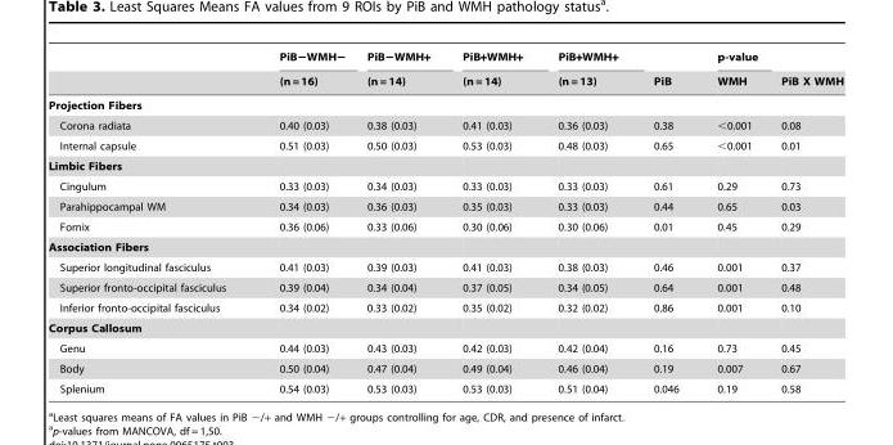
<table><thead><tr><td rowspan="2"></td><td rowspan="2">PiB−WMH− (n = 16)</td><td rowspan="2">PiB−WMH+ (n = 14)</td><td rowspan="2">PiB+WMH+ (n = 14)</td><td rowspan="2">PiB+WMH+ (n = 13)</td><td rowspan="2">PiB</td><td rowspan="2">p-value WMH</td><td rowspan="2">PiB X WMH</td></tr><tr></tr></thead><tbody><tr><td colspan="8">Projection Fibers</td></tr><tr><td>Corona radiata</td><td>0.40 (0.03)</td><td>0.38 (0.03)</td><td>0.41 (0.03)</td><td>0.36 (0.03)</td><td>0.38</td><td>&lt;0.001</td><td>0.08</td></tr><tr><td>Internal capsule</td><td>0.51 (0.03)</td><td>0.50 (0.03)</td><td>0.53 (0.03)</td><td>0.48 (0.03)</td><td>0.65</td><td>&lt;0.001</td><td>0.01</td></tr><tr><td colspan="8">Limbic Fibers</td></tr><tr><td>Cingulum</td><td>0.33 (0.03)</td><td>0.34 (0.03)</td><td>0.33 (0.03)</td><td>0.33 (0.03)</td><td>0.61</td><td>0.29</td><td>0.73</td></tr><tr><td>Parahippocampal WM</td><td>0.34 (0.03)</td><td>0.36 (0.03)</td><td>0.35 (0.03)</td><td>0.33 (0.03)</td><td>0.44</td><td>0.65</td><td>0.03</td></tr><tr><td>Fornix</td><td>0.36 (0.06)</td><td>0.33 (0.06)</td><td>0.30 (0.06)</td><td>0.30 (0.06)</td><td>0.01</td><td>0.45</td><td>0.29</td></tr><tr><td colspan="8">Association Fibers</td></tr><tr><td>Superior longitudinal fasciculus</td><td>0.41 (0.03)</td><td>0.39 (0.03)</td><td>0.41 (0.03)</td><td>0.38 (0.03)</td><td>0.46</td><td>0.001</td><td>0.37</td></tr><tr><td>Superior fronto-occipital fasciculus</td><td>0.39 (0.04)</td><td>0.34 (0.04)</td><td>0.37 (0.05)</td><td>0.34 (0.05)</td><td>0.64</td><td>0.001</td><td>0.48</td></tr><tr><td>Inferior fronto-occipital fasciculus</td><td>0.34 (0.02)</td><td>0.33 (0.02)</td><td>0.35 (0.02)</td><td>0.32 (0.02)</td><td>0.86</td><td>0.001</td><td>0.10</td></tr><tr><td colspan="8">Corpus Callosum</td></tr><tr><td>Genu</td><td>0.44 (0.03)</td><td>0.43 (0.03)</td><td>0.42 (0.03)</td><td>0.42 (0.04)</td><td>0.16</td><td>0.73</td><td>0.45</td></tr><tr><td>Body</td><td>0.50 (0.04)</td><td>0.47 (0.04)</td><td>0.49 (0.04)</td><td>0.46 (0.04)</td><td>0.19</td><td>0.007</td><td>0.67</td></tr><tr><td>Splenium</td><td>0.54 (0.03)</td><td>0.53 (0.03)</td><td>0.53 (0.03)</td><td>0.51 (0.04)</td><td>0.046</td><td>0.19</td><td>0.58</td></tr></tbody></table>